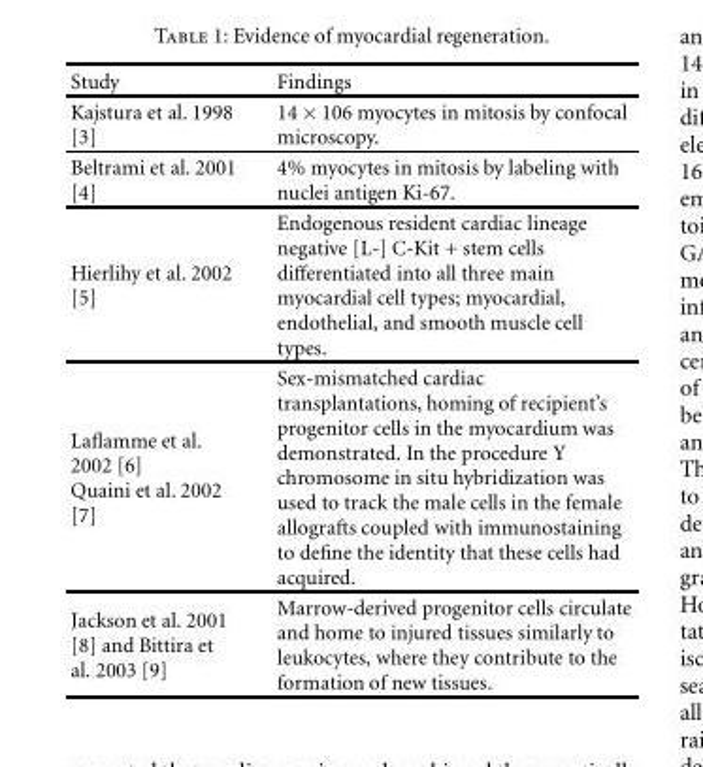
<table><thead><tr><td>Study</td><td>Findings</td></tr></thead><tbody><tr><td>Kajstura et al. 1998 [3]</td><td>14 × 106 myocytes in mitosis by confocal microscopy.</td></tr><tr><td>Beltrami et al. 2001 [4]</td><td>4% myocytes in mitosis by labeling with nuclei antigen Ki-67.</td></tr><tr><td>Hierlihy et al. 2002 [5]</td><td>Endogenous resident cardiac lineage negative [L-] C-Kit + stem cells differentiated into all three main myocardial cell types; myocardial, endothelial, and smooth muscle cell types.</td></tr><tr><td>Laflamme et al. 2002 [6] Quaini et al. 2002 [7]</td><td>Sex-mismatched cardiac transplantations, homing of recipient’s progenitor cells in the myocardium was demonstrated. In the procedure Y chromosome in situ hybridization was used to track the male cells in the female allografts coupled with immunostaining to define the identity that these cells had acquired.</td></tr><tr><td>Jackson et al. 2001 [8] and Bittira et al. 2003 [9]</td><td>Marrow-derived progenitor cells circulate and home to injured tissues similarly to leukocytes, where they contribute to the formation of new tissues.</td></tr></tbody></table>